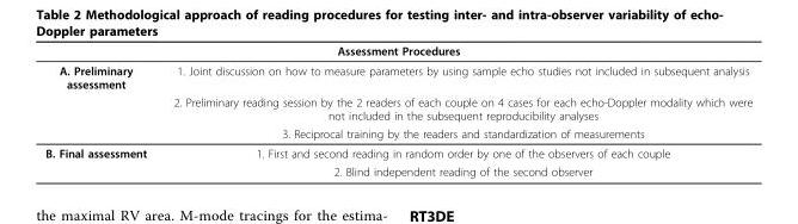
<table><thead><tr><td colspan="2">Assessment Procedures</td></tr><tr><td>A. Preliminary assessment</td><td>1. Joint discussion on how to measure parameters by using sample echo studies not included in subsequent analysis</td></tr></thead><tbody><tr><td></td><td>2. Preliminary reading session by the 2 readers of each couple on 4 cases for each echo-Doppler modality which were not included in the subsequent reproducibility analyses</td></tr><tr><td></td><td>3. Reciprocal training by the readers and standardization of measurements</td></tr><tr><td rowspan="2">B. Final assessment</td><td>1. First and second reading in random order by one of the observers of each couple</td></tr><tr><td>2. Blind independent reading of the second observer</td></tr></tbody></table>